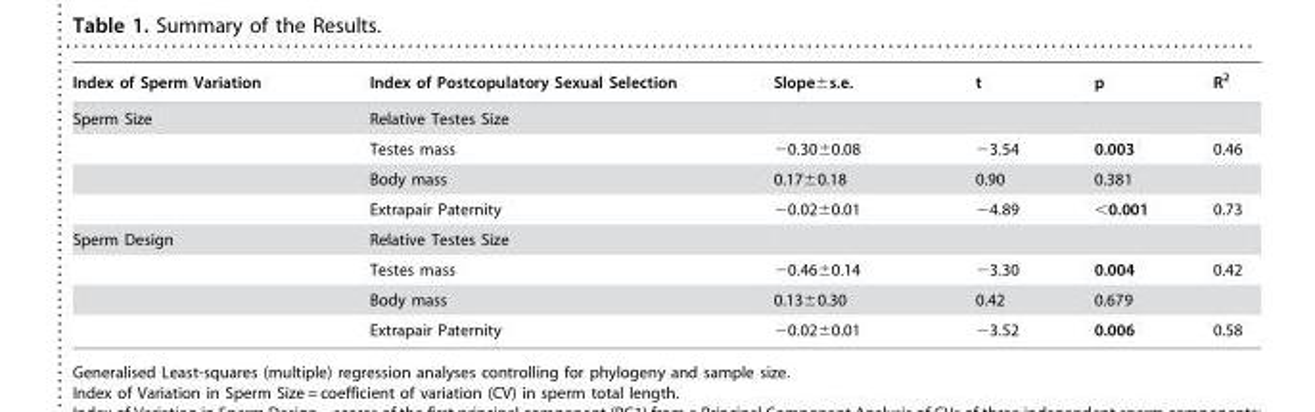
<table><thead><tr><td>Index of Sperm Variation</td><td>Index of Postcopulatory Sexual Selection</td><td>Slope±s.e.</td><td>t</td><td>p</td><td>R<sup>2</sup></td></tr></thead><tbody><tr><td rowspan="4">Sperm Size</td><td>Relative Testes Size</td><td></td><td></td><td></td><td></td></tr><tr><td>Testes mass</td><td>−0.30±0.08</td><td>−3.54</td><td>0.003</td><td>0.46</td></tr><tr><td>Body mass</td><td>0.17±0.18</td><td>0.90</td><td>0.381</td><td></td></tr><tr><td>Extrapair Paternity</td><td>−0.02±0.01</td><td>−4.89</td><td>&lt;0.001</td><td>0.73</td></tr><tr><td rowspan="4">Sperm Design</td><td>Relative Testes Size</td><td></td><td></td><td></td><td></td></tr><tr><td>Testes mass</td><td>−0.46±0.14</td><td>−3.30</td><td>0.004</td><td>0.42</td></tr><tr><td>Body mass</td><td>0.13±0.30</td><td>0.42</td><td>0.679</td><td></td></tr><tr><td>Extrapair Paternity</td><td>−0.02±0.01</td><td>−3.52</td><td>0.006</td><td>0.58</td></tr></tbody></table>